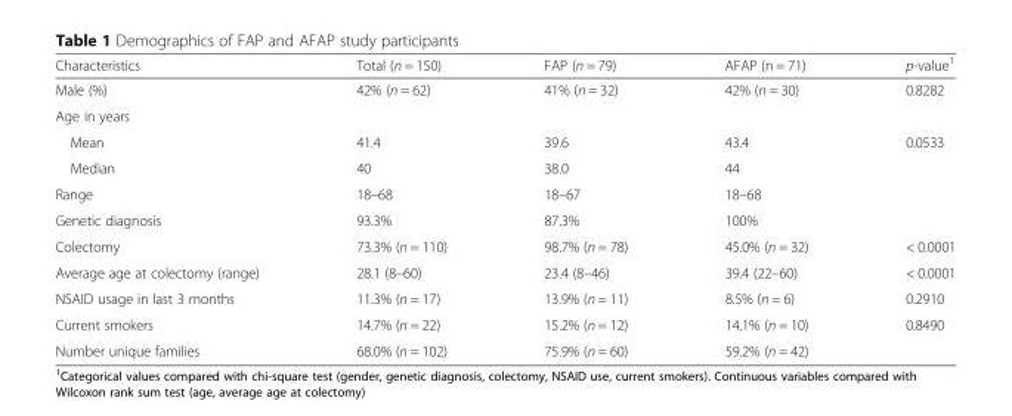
<table><thead><tr><td>Characteristics</td><td>Total (n = 150)</td><td>FAP (n = 79)</td><td>AFAP (n = 71)</td><td>p-value<sup>1</sup></td></tr></thead><tbody><tr><td>Male (%)</td><td>42% (n = 62)</td><td>41% (n = 32)</td><td>42% (n = 30)</td><td>0.8282</td></tr><tr><td colspan="5">Age in years</td></tr><tr><td>Mean</td><td>41.4</td><td>39.6</td><td>43.4</td><td rowspan="3">0.0533</td></tr><tr><td>Median</td><td>40</td><td>38.0</td><td>44</td></tr><tr><td>Range</td><td>18–68</td><td>18–67</td><td>18–68</td></tr><tr><td>Genetic diagnosis</td><td>93.3%</td><td>87.3%</td><td>100%</td><td></td></tr><tr><td>Colectomy</td><td>73.3% (n = 110)</td><td>98.7% (n = 78)</td><td>45.0% (n = 32)</td><td>&lt; 0.0001</td></tr><tr><td>Average age at colectomy (range)</td><td>28.1 (8–60)</td><td>23.4 (8–46)</td><td>39.4 (22–60)</td><td>&lt; 0.0001</td></tr><tr><td>NSAID usage in last 3 months</td><td>11.3% (n = 17)</td><td>13.9% (n = 11)</td><td>8.5% (n = 6)</td><td>0.2910</td></tr><tr><td>Current smokers</td><td>14.7% (n = 22)</td><td>15.2% (n = 12)</td><td>14.1% (n = 10)</td><td>0.8490</td></tr><tr><td>Number unique families</td><td>68.0% (n = 102)</td><td>75.9% (n = 60)</td><td>59.2% (n = 42)</td><td></td></tr></tbody></table>